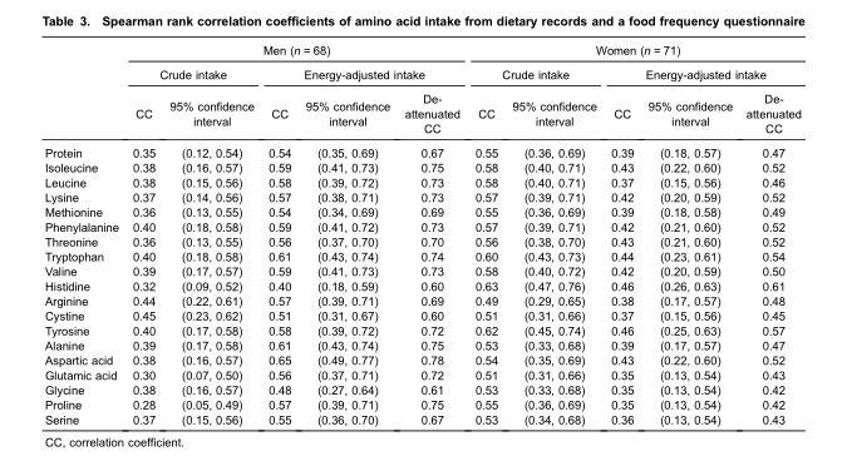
<table><thead><tr><td rowspan="3"></td><td colspan="5">Men (n = 68)</td><td colspan="5">Women (n = 71)</td></tr><tr><td colspan="2">Crude intake</td><td colspan="3">Energy-adjusted intake</td><td colspan="2">Crude intake</td><td colspan="3">Energy-adjusted intake</td></tr><tr><td>CC</td><td>95% confidence interval</td><td>CC</td><td>95% confidence interval</td><td>De- attenuated CC</td><td>CC</td><td>95% confidence interval</td><td>CC</td><td>95% confidence interval</td><td>De- attenuated CC</td></tr></thead><tbody><tr><td>Protein</td><td>0.35</td><td>(0.12, 0.54)</td><td>0.54</td><td>(0.35, 0.69)</td><td>0.67</td><td>0.55</td><td>(0.36, 0.69)</td><td>0.39</td><td>(0.18, 0.57)</td><td>0.47</td></tr><tr><td>Isoleucine</td><td>0.38</td><td>(0.16, 0.57)</td><td>0.59</td><td>(0.41, 0.73)</td><td>0.75</td><td>0.58</td><td>(0.40, 0.71)</td><td>0.43</td><td>(0.22, 0.60)</td><td>0.52</td></tr><tr><td>Leucine</td><td>0.38</td><td>(0.15, 0.56)</td><td>0.58</td><td>(0.39, 0.72)</td><td>0.73</td><td>0.58</td><td>(0.40, 0.71)</td><td>0.37</td><td>(0.15, 0.56)</td><td>0.46</td></tr><tr><td>Lysine</td><td>0.37</td><td>(0.14, 0.56)</td><td>0.57</td><td>(0.38, 0.71)</td><td>0.73</td><td>0.57</td><td>(0.39, 0.71)</td><td>0.42</td><td>(0.20, 0.59)</td><td>0.52</td></tr><tr><td>Methionine</td><td>0.36</td><td>(0.13, 0.55)</td><td>0.54</td><td>(0.34, 0.69)</td><td>0.69</td><td>0.55</td><td>(0.36, 0.69)</td><td>0.39</td><td>(0.18, 0.58)</td><td>0.49</td></tr><tr><td>Phenylalanine</td><td>0.40</td><td>(0.18, 0.58)</td><td>0.59</td><td>(0.41, 0.72)</td><td>0.73</td><td>0.57</td><td>(0.39, 0.71)</td><td>0.42</td><td>(0.21, 0.60)</td><td>0.52</td></tr><tr><td>Threonine</td><td>0.36</td><td>(0.13, 0.55)</td><td>0.56</td><td>(0.37, 0.70)</td><td>0.70</td><td>0.56</td><td>(0.38, 0.70)</td><td>0.43</td><td>(0.21, 0.60)</td><td>0.52</td></tr><tr><td>Tryptophan</td><td>0.40</td><td>(0.18, 0.58)</td><td>0.61</td><td>(0.43, 0.74)</td><td>0.74</td><td>0.60</td><td>(0.43, 0.73)</td><td>0.44</td><td>(0.23, 0.61)</td><td>0.54</td></tr><tr><td>Valine</td><td>0.39</td><td>(0.17, 0.57)</td><td>0.59</td><td>(0.41, 0.73)</td><td>0.73</td><td>0.58</td><td>(0.40, 0.72)</td><td>0.42</td><td>(0.20, 0.59)</td><td>0.50</td></tr><tr><td>Histidine</td><td>0.32</td><td>(0.09, 0.52)</td><td>0.40</td><td>(0.18, 0.59)</td><td>0.60</td><td>0.63</td><td>(0.47, 0.76)</td><td>0.46</td><td>(0.26, 0.63)</td><td>0.61</td></tr><tr><td>Arginine</td><td>0.44</td><td>(0.22, 0.61)</td><td>0.57</td><td>(0.39, 0.71)</td><td>0.69</td><td>0.49</td><td>(0.29, 0.65)</td><td>0.38</td><td>(0.17, 0.57)</td><td>0.48</td></tr><tr><td>Cystine</td><td>0.45</td><td>(0.23, 0.62)</td><td>0.51</td><td>(0.31, 0.67)</td><td>0.60</td><td>0.51</td><td>(0.31, 0.66)</td><td>0.37</td><td>(0.15, 0.56)</td><td>0.45</td></tr><tr><td>Tyrosine</td><td>0.40</td><td>(0.17, 0.58)</td><td>0.58</td><td>(0.39, 0.72)</td><td>0.72</td><td>0.62</td><td>(0.45, 0.74)</td><td>0.46</td><td>(0.25, 0.63)</td><td>0.57</td></tr><tr><td>Alanine</td><td>0.39</td><td>(0.17, 0.58)</td><td>0.61</td><td>(0.43, 0.74)</td><td>0.75</td><td>0.53</td><td>(0.33, 0.68)</td><td>0.39</td><td>(0.17, 0.57)</td><td>0.47</td></tr><tr><td>Aspartic acid</td><td>0.38</td><td>(0.16, 0.57)</td><td>0.65</td><td>(0.49, 0.77)</td><td>0.78</td><td>0.54</td><td>(0.35, 0.69)</td><td>0.43</td><td>(0.22, 0.60)</td><td>0.52</td></tr><tr><td>Glutamic acid</td><td>0.30</td><td>(0.07, 0.50)</td><td>0.56</td><td>(0.37, 0.71)</td><td>0.72</td><td>0.51</td><td>(0.31, 0.66)</td><td>0.35</td><td>(0.13, 0.54)</td><td>0.43</td></tr><tr><td>Glycine</td><td>0.38</td><td>(0.16, 0.57)</td><td>0.48</td><td>(0.27, 0.64)</td><td>0.61</td><td>0.53</td><td>(0.33, 0.68)</td><td>0.35</td><td>(0.13, 0.54)</td><td>0.42</td></tr><tr><td>Proline</td><td>0.28</td><td>(0.05, 0.49)</td><td>0.57</td><td>(0.39, 0.71)</td><td>0.75</td><td>0.55</td><td>(0.36, 0.69)</td><td>0.35</td><td>(0.13, 0.54)</td><td>0.42</td></tr><tr><td>Serine</td><td>0.37</td><td>(0.15, 0.56)</td><td>0.55</td><td>(0.36, 0.70)</td><td>0.67</td><td>0.53</td><td>(0.34, 0.68)</td><td>0.36</td><td>(0.13, 0.54)</td><td>0.43</td></tr></tbody></table>